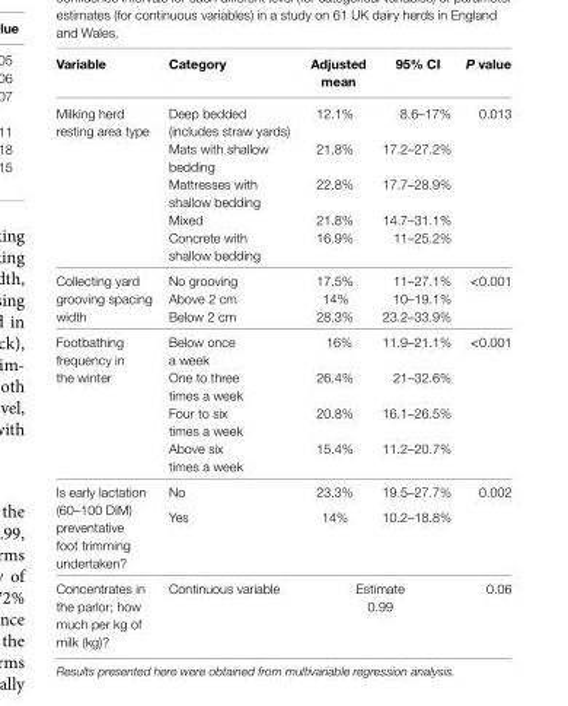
<table><thead><tr><td>Variable</td><td>category</td><td>adjusted mean</td><td>95% ci</td><td>P value</td></tr></thead><tbody><tr><td rowspan="5">Milking herd resting area type</td><td>Deep bedded (includes straw yards)</td><td>12.1%</td><td>8.6–17%</td><td rowspan="5">0.013</td></tr><tr><td>Mats with shallow bedding</td><td>21.8%</td><td>17.2–27.2%</td></tr><tr><td>Mattresses with shallow bedding</td><td>22.8%</td><td>17.7–28.9%</td></tr><tr><td>Mixed</td><td>21.8%</td><td>14.7–31.1%</td></tr><tr><td>Concrete with shallow bedding</td><td>16.9%</td><td>11–25.2%</td></tr><tr><td rowspan="3">Collecting yard grooving spacing width</td><td>No grooving</td><td>17.5%</td><td>11–27.1%</td><td rowspan="3">&lt;0.001</td></tr><tr><td>Above 2 cm</td><td>14%</td><td>10–19.1%</td></tr><tr><td>Below 2 cm</td><td>28.3%</td><td>23.2–33.9%</td></tr><tr><td rowspan="4">Footbathing frequency in the winter</td><td>Below once a week</td><td>16%</td><td>11.9–21.1%</td><td rowspan="4">&lt;0.001</td></tr><tr><td>One to three times a week</td><td>26.4%</td><td>21–32.6%</td></tr><tr><td>Four to six times a week</td><td>20.8%</td><td>16.1–26.5%</td></tr><tr><td>Above six times a week</td><td>15.4%</td><td>11.2–20.7%</td></tr><tr><td rowspan="2">Is early lactation (60–100 DIM) preventative foot trimming undertaken?</td><td>No</td><td>23.3%</td><td>19.5–27.7%</td><td rowspan="2">0.002</td></tr><tr><td>Yes</td><td>14%</td><td>10.2–18.8%</td></tr><tr><td rowspan="2">Concentrates in the parlor; how much per kg of milk (kg)?</td><td>Continuous variable</td><td colspan="2">Estimate</td><td rowspan="2">0.06</td></tr><tr><td></td><td colspan="2">0.99</td></tr></tbody></table>